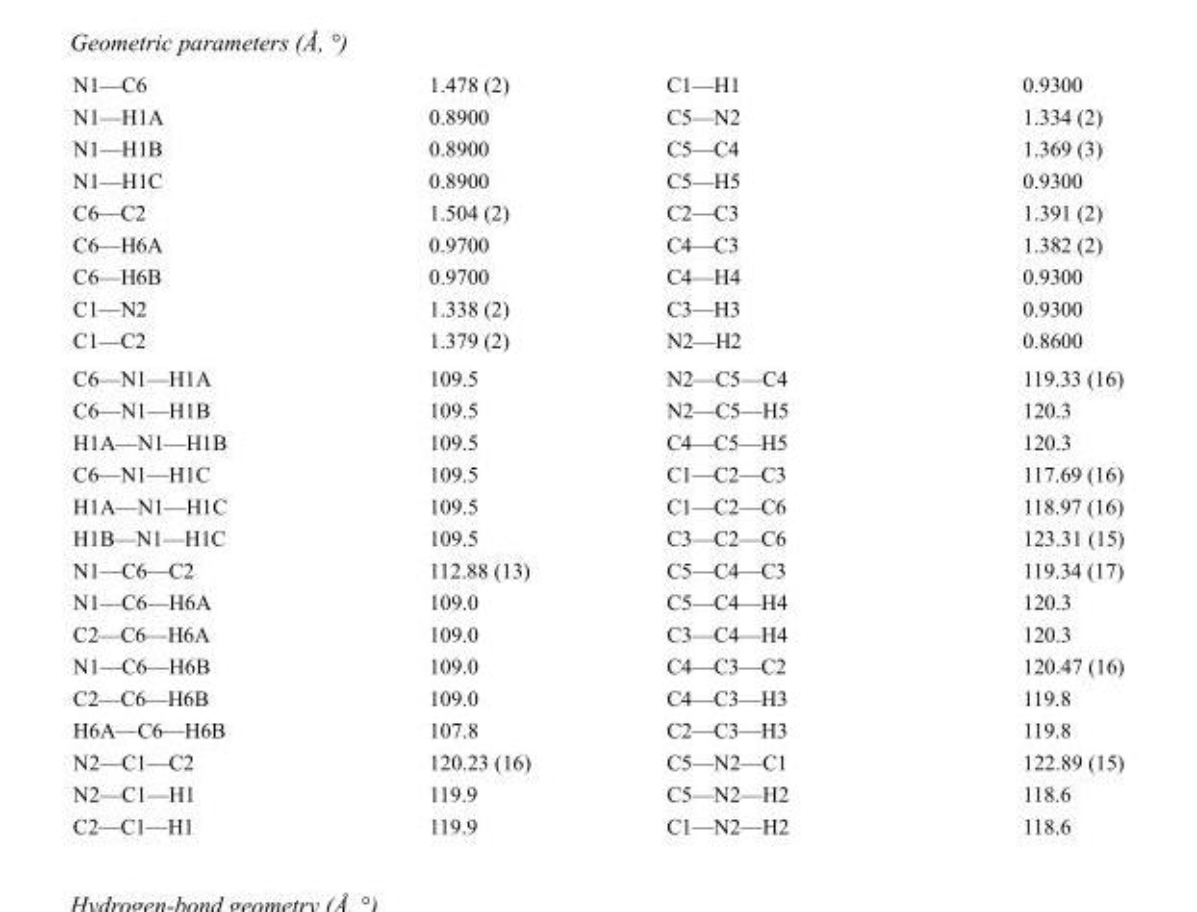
<table><tbody><tr><td>N1—C6</td><td>1.478 (2)</td><td>C1—H1</td><td>0.9300</td></tr><tr><td>N1—H1A</td><td>0.8900</td><td>C5—N2</td><td>1.334 (2)</td></tr><tr><td>N1—H1B</td><td>0.8900</td><td>C5—C4</td><td>1.369 (3)</td></tr><tr><td>N1—H1C</td><td>0.8900</td><td>C5—H5</td><td>0.9300</td></tr><tr><td>C6—C2</td><td>1.504 (2)</td><td>C2—C3</td><td>1.391 (2)</td></tr><tr><td>C6—H6A</td><td>0.9700</td><td>C4—C3</td><td>1.382 (2)</td></tr><tr><td>C6—H6B</td><td>0.9700</td><td>C4—H4</td><td>0.9300</td></tr><tr><td>C1—N2</td><td>1.338 (2)</td><td>C3—H3</td><td>0.9300</td></tr><tr><td>C1—C2</td><td>1.379 (2)</td><td>N2—H2</td><td>0.8600</td></tr><tr><td>C6—N1—H1A</td><td>109.5</td><td>N2—C5—C4</td><td>119.33 (16)</td></tr><tr><td>C6—N1—H1B</td><td>109.5</td><td>N2—C5—H5</td><td>120.3</td></tr><tr><td>H1A—N1—H1B</td><td>109.5</td><td>C4—C5—H5</td><td>120.3</td></tr><tr><td>C6—N1—H1C</td><td>109.5</td><td>C1—C2—C3</td><td>117.69 (16)</td></tr><tr><td>H1A—N1—H1C</td><td>109.5</td><td>C1—C2—C6</td><td>118.97 (16)</td></tr><tr><td>H1B—N1—H1C</td><td>109.5</td><td>C3—C2—C6</td><td>123.31 (15)</td></tr><tr><td>N1—C6—C2</td><td>112.88 (13)</td><td>C5—C4—C3</td><td>119.34 (17)</td></tr><tr><td>N1—C6—H6A</td><td>109.0</td><td>C5—C4—H4</td><td>120.3</td></tr><tr><td>C2—C6—H6A</td><td>109.0</td><td>C3—C4—H4</td><td>120.3</td></tr><tr><td>N1—C6—H6B</td><td>109.0</td><td>C4—C3—C2</td><td>120.47 (16)</td></tr><tr><td>C2—C6—H6B</td><td>109.0</td><td>C4—C3—H3</td><td>119.8</td></tr><tr><td>H6A—C6—H6B</td><td>107.8</td><td>C2—C3—H3</td><td>119.8</td></tr><tr><td>N2—C1—C2</td><td>120.23 (16)</td><td>C5—N2—C1</td><td>122.89 (15)</td></tr><tr><td>N2—C1—H1</td><td>119.9</td><td>C5—N2—H2</td><td>118.6</td></tr><tr><td>C2—C1—H1</td><td>119.9</td><td>C1—N2—H2</td><td>118.6</td></tr></tbody></table>